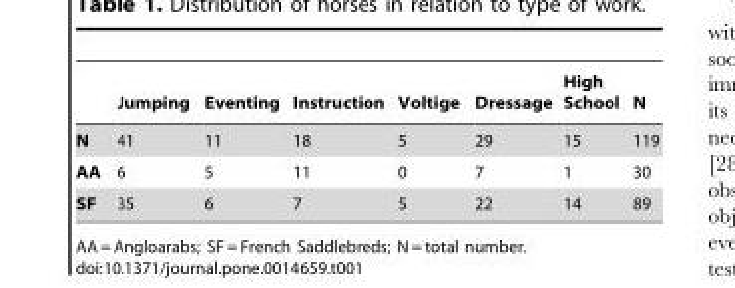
<table><thead><tr><td></td><td>Jumping</td><td>Eventing</td><td>Instruction</td><td>Voltige</td><td>Dressage</td><td>High School</td><td>N</td></tr></thead><tbody><tr><td>N</td><td>41</td><td>11</td><td>18</td><td>5</td><td>29</td><td>15</td><td>119</td></tr><tr><td>AA</td><td>6</td><td>5</td><td>11</td><td>0</td><td>7</td><td>1</td><td>30</td></tr><tr><td>SF</td><td>35</td><td>6</td><td>7</td><td>5</td><td>22</td><td>14</td><td>89</td></tr></tbody></table>